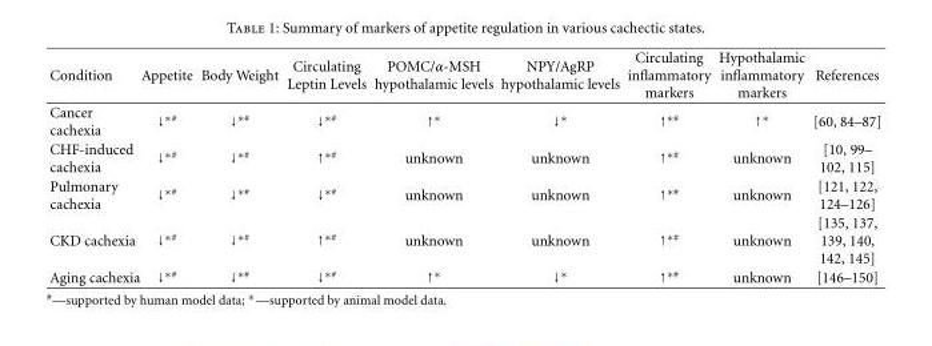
<table><thead><tr><td>Condition</td><td>Appetite</td><td>Body Weight</td><td>Circulating Leptin Levels</td><td>POMC/α-MSH hypothalamic levels</td><td>NPY/AgRP hypothalamic levels</td><td>Circulating inflammatory markers</td><td>Hypothalamic inflammatory markers</td><td>References</td></tr></thead><tbody><tr><td>Cancer cachexia</td><td>↓<sup>∗#</sup></td><td>↓<sup>∗#</sup></td><td>↓<sup>∗#</sup></td><td>↑∗</td><td>↓∗</td><td>↑<sup>∗#</sup></td><td>↑∗</td><td>[60, 84–87]</td></tr><tr><td>CHF-induced cachexia</td><td>↓<sup>∗#</sup></td><td>↓<sup>∗#</sup></td><td>↑<sup>∗#</sup></td><td>unknown</td><td>unknown</td><td>↑<sup>∗#</sup></td><td>unknown</td><td>[10, 99– 102, 115]</td></tr><tr><td>Pulmonary cachexia</td><td>↓<sup>∗#</sup></td><td>↓<sup>∗#</sup></td><td>↓<sup>∗#</sup></td><td>unknown</td><td>unknown</td><td>↑<sup>∗#</sup></td><td>unknown</td><td>[121, 122, 124–126]</td></tr><tr><td>CKD cachexia</td><td>↓<sup>∗#</sup></td><td>↓<sup>∗#</sup></td><td>↑<sup>∗#</sup></td><td>unknown</td><td>unknown</td><td>↑<sup>∗#</sup></td><td>unknown</td><td>[135, 137, 139, 140, 142, 145]</td></tr><tr><td>Aging cachexia</td><td>↓<sup>∗#</sup></td><td>↓<sup>∗#</sup></td><td>↓<sup>∗#</sup></td><td>↑∗</td><td>↓∗</td><td>↑<sup>∗#</sup></td><td>unknown</td><td>[146–150]</td></tr></tbody></table>